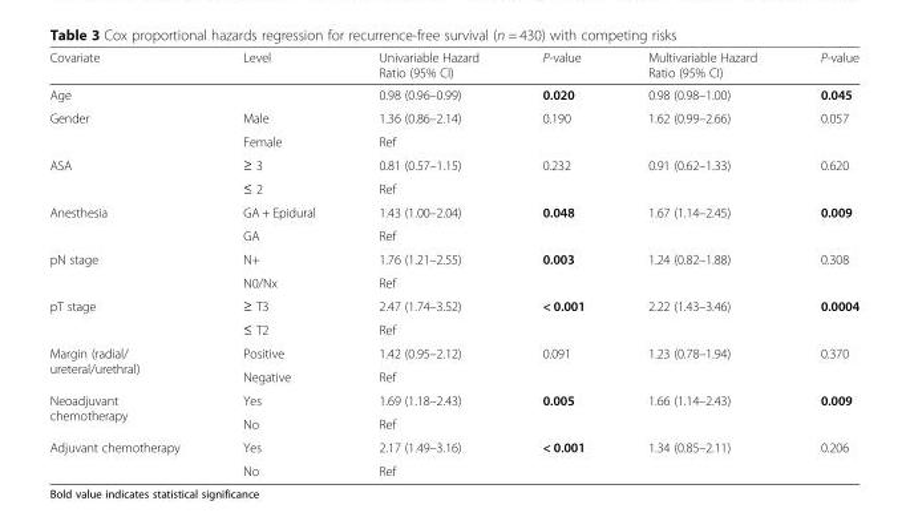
<table><thead><tr><td>Covariate</td><td>Level</td><td>Univariable Hazard Ratio (95% CI)</td><td>P-value</td><td>Multivariable Hazard Ratio (95% CI)</td><td>P-value</td></tr></thead><tbody><tr><td>Age</td><td></td><td>0.98 (0.96–0.99)</td><td>0.020</td><td>0.98 (0.98–1.00)</td><td>0.045</td></tr><tr><td rowspan="2">Gender</td><td>Male</td><td>1.36 (0.86–2.14)</td><td>0.190</td><td>1.62 (0.99–2.66)</td><td>0.057</td></tr><tr><td>Female</td><td>Ref</td><td></td><td></td><td></td></tr><tr><td rowspan="2">ASA</td><td>≥ 3</td><td>0.81 (0.57–1.15)</td><td>0.232</td><td>0.91 (0.62–1.33)</td><td>0.620</td></tr><tr><td>≤ 2</td><td>Ref</td><td></td><td></td><td></td></tr><tr><td rowspan="2">Anesthesia</td><td>GA + Epidural</td><td>1.43 (1.00–2.04)</td><td>0.048</td><td>1.67 (1.14–2.45)</td><td>0.009</td></tr><tr><td>GA</td><td>Ref</td><td></td><td></td><td></td></tr><tr><td rowspan="2">pN stage</td><td>N+</td><td>1.76 (1.21–2.55)</td><td>0.003</td><td>1.24 (0.82–1.88)</td><td>0.308</td></tr><tr><td>N0/Nx</td><td>Ref</td><td></td><td></td><td></td></tr><tr><td rowspan="2">pT stage</td><td>≥ T3</td><td>2.47 (1.74–3.52)</td><td>&lt; 0.001</td><td>2.22 (1.43–3.46)</td><td>0.0004</td></tr><tr><td>≤ T2</td><td>Ref</td><td></td><td></td><td></td></tr><tr><td rowspan="2">Margin (radial/ ureteral/urethral)</td><td>Positive</td><td>1.42 (0.95–2.12)</td><td>0.091</td><td>1.23 (0.78–1.94)</td><td>0.370</td></tr><tr><td>Negative</td><td>Ref</td><td></td><td></td><td></td></tr><tr><td rowspan="2">Neoadjuvant chemotherapy</td><td>Yes</td><td>1.69 (1.18–2.43)</td><td>0.005</td><td>1.66 (1.14–2.43)</td><td>0.009</td></tr><tr><td>No</td><td>Ref</td><td></td><td></td><td></td></tr><tr><td rowspan="2">Adjuvant chemotherapy</td><td>Yes</td><td>2.17 (1.49–3.16)</td><td>&lt; 0.001</td><td>1.34 (0.85–2.11)</td><td>0.206</td></tr><tr><td>No</td><td>Ref</td><td></td><td></td><td></td></tr></tbody></table>